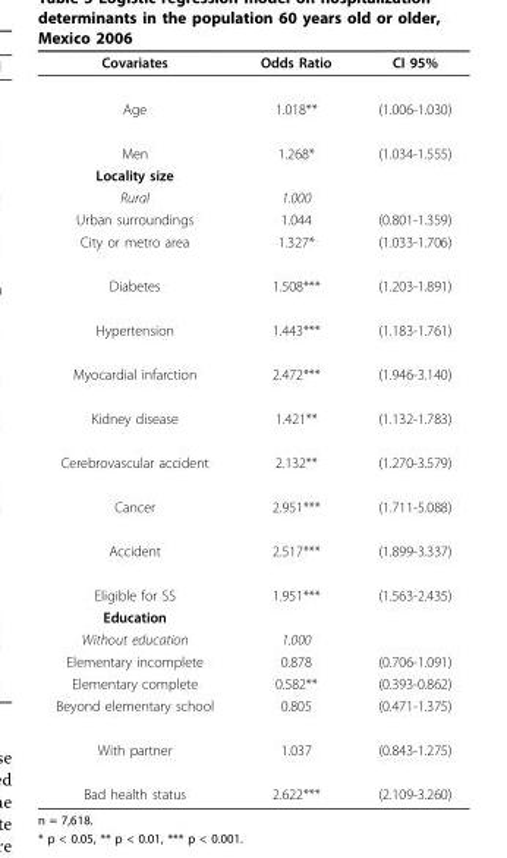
<table><thead><tr><td>Covariates</td><td>Odds Ratio</td><td>CI 95%</td></tr></thead><tbody><tr><td>Age</td><td>1.018**</td><td>(1.006-1.030)</td></tr><tr><td>Men</td><td>1.268*</td><td>(1.034-1.555)</td></tr><tr><td colspan="3">Locality size</td></tr><tr><td>Rural</td><td>1.000</td><td></td></tr><tr><td>Urban surroundings</td><td>1.044</td><td>(0.801-1.359)</td></tr><tr><td>City or metro area</td><td>1.327*</td><td>(1.033-1.706)</td></tr><tr><td>Diabetes</td><td>1.508***</td><td>(1.203-1.891)</td></tr><tr><td>Hypertension</td><td>1.443***</td><td>(1.183-1.761)</td></tr><tr><td>Myocardial infarction</td><td>2.472***</td><td>(1.946-3.140)</td></tr><tr><td>Kidney disease</td><td>1.421**</td><td>(1.132-1.783)</td></tr><tr><td>Cerebrovascular accident</td><td>2.132**</td><td>(1.270-3.579)</td></tr><tr><td>Cancer</td><td>2.951***</td><td>(1.711-5.088)</td></tr><tr><td>Accident</td><td>2.517***</td><td>(1.899-3.337)</td></tr><tr><td>Eligible for SS</td><td>1.951***</td><td>(1.563-2.435)</td></tr><tr><td colspan="3">Education</td></tr><tr><td>Without education</td><td>1.000</td><td></td></tr><tr><td>Elementary incomplete</td><td>0.878</td><td>(0.706-1.091)</td></tr><tr><td>Elementary complete</td><td>0.582**</td><td>(0.393-0.862)</td></tr><tr><td>Beyond elementary school</td><td>0.805</td><td>(0.471-1.375)</td></tr><tr><td>With partner</td><td>1.037</td><td>(0.843-1.275)</td></tr><tr><td>Bad health status</td><td>2.622***</td><td>(2.109-3.260)</td></tr></tbody></table>